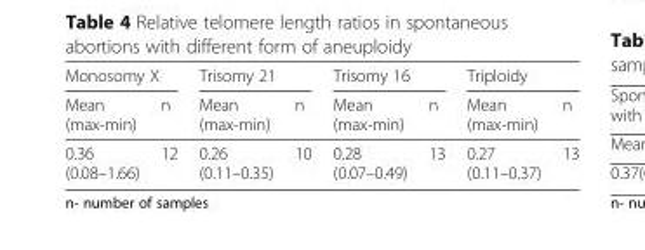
<table><thead><tr><td colspan="2">Monosomy X</td><td colspan="2">Trisomy 21</td><td colspan="2">Trisomy 16</td><td colspan="2">Triploidy</td></tr><tr><td>Mean (max-min)</td><td>n</td><td>Mean (max-min)</td><td>n</td><td>Mean (max-min)</td><td>n</td><td>Mean (max-min)</td><td>n</td></tr></thead><tbody><tr><td>0.36 (0.08–1.66)</td><td>12</td><td>0.26 (0.11–0.35)</td><td>10</td><td>0.28 (0.07–0.49)</td><td>13</td><td>0.27 (0.11–0.37)</td><td>13</td></tr></tbody></table>